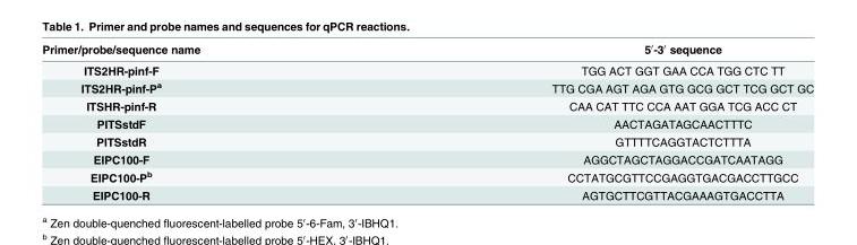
<table><thead><tr><td>Primer/probe/sequence name</td><td>5′-3′ sequence</td></tr></thead><tbody><tr><td>ITS2HR-pinf-F</td><td>TGG ACT GGT GAA CCA TGG CTC TT</td></tr><tr><td>ITS2HR-pinf-P<sup>a</sup></td><td>TTG CGA AGT AGA GTG GCG GCT TCG GCT GC</td></tr><tr><td>ITSHR-pinf-R</td><td>CAA CAT TTC CCA AAT GGA TCG ACC CT</td></tr><tr><td>PITSstdF</td><td>AACTAGATAGCAACTTTC</td></tr><tr><td>PITSstdR</td><td>GTTTTCAGGTACTCTTTA</td></tr><tr><td>EIPC100-F</td><td>AGGCTAGCTAGGACCGATCAATAGG</td></tr><tr><td>EIPC100-P<sup>b</sup></td><td>CCTATGCGTTCCGAGGTGACGACCTTGCC</td></tr><tr><td>EIPC100-R</td><td>AGTGCTTCGTTACGAAAGTGACCTTA</td></tr></tbody></table>